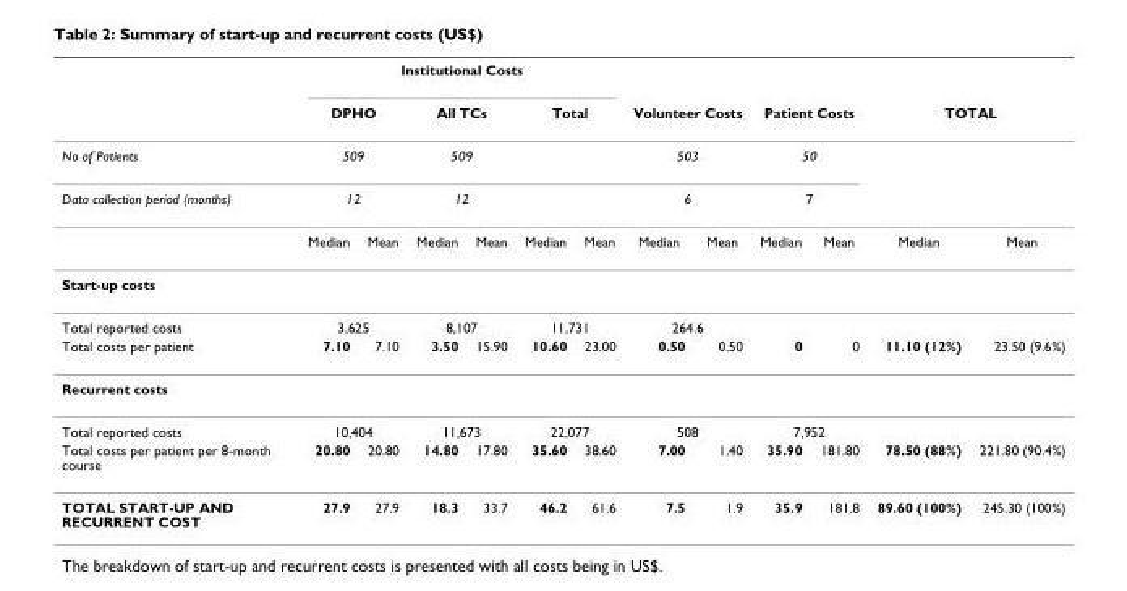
<table><thead><tr><td rowspan="5">No of Patients Data collection period (months)</td><td colspan="6">Institutional Costs</td><td></td><td></td><td></td><td></td><td></td><td></td></tr><tr><td rowspan="3" colspan="2">DPHO 509 12</td><td rowspan="3" colspan="2">All TCs 509 12</td><td colspan="2">Total</td><td rowspan="3" colspan="2">Volunteer Costs 503 6</td><td rowspan="3" colspan="2">Patient Costs 50 7</td><td colspan="2">TOTAL</td></tr><tr><td rowspan="3">Median</td><td rowspan="3">Mean</td><td rowspan="3">Median</td><td rowspan="3">Mean</td></tr><tr></tr><tr><td>Median</td><td>Mean</td><td>Median</td><td>Mean</td><td>Median</td><td>Mean</td><td>Median</td><td>Mean</td></tr></thead><tbody><tr><td colspan="13">Start-up costs</td></tr><tr><td>Total reported costs</td><td colspan="2">3,625</td><td colspan="2">8,107</td><td colspan="2">11,731</td><td colspan="2">264.6</td><td></td><td></td><td></td><td></td></tr><tr><td>Total costs per patient</td><td>7.10</td><td>7.10</td><td>3.50</td><td>15.90</td><td>10.60</td><td>23.00</td><td>0.50</td><td>0.50</td><td>0</td><td>0</td><td>11.10 (12%)</td><td>23.50 (9.6%)</td></tr><tr><td colspan="13">Recurrent costs</td></tr><tr><td>Total reported costs</td><td colspan="2">10,404</td><td colspan="2">11,673</td><td colspan="2">22,077</td><td colspan="2">508</td><td colspan="2">7,952</td><td></td><td></td></tr><tr><td>Total costs per patient per 8-month course</td><td>20.80</td><td>20.80</td><td>14.80</td><td>17.80</td><td>35.60</td><td>38.60</td><td>7.00</td><td>1.40</td><td>35.90</td><td>181.80</td><td>78.50 (88%)</td><td>221.80 (90.4%)</td></tr><tr><td>TOTAL START-UP AND RECURRENT COST</td><td>27.9</td><td>27.9</td><td>18.3</td><td>33.7</td><td>46.2</td><td>61.6</td><td>7.5</td><td>1.9</td><td>35.9</td><td>181.8</td><td>89.60 (100%)</td><td>245.30 (100%)</td></tr></tbody></table>